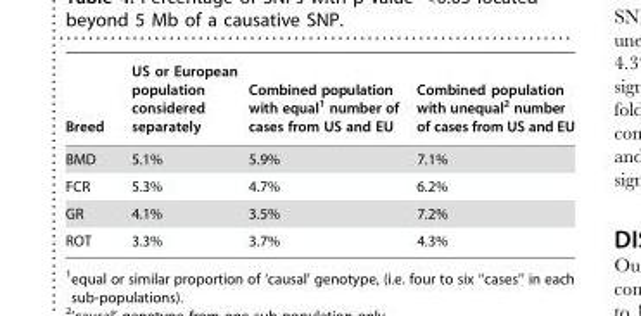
<table><thead><tr><td>Breed</td><td>US or European population considered separately</td><td>Combined population with equal<sup>1</sup> number of cases from US and EU</td><td>Combined population with unequal<sup>2</sup> number of cases from US and EU</td></tr></thead><tbody><tr><td>BMD</td><td>5.1%</td><td>5.9%</td><td>7.1%</td></tr><tr><td>FCR</td><td>5.3%</td><td>4.7%</td><td>6.2%</td></tr><tr><td>GR</td><td>4.1%</td><td>3.5%</td><td>7.2%</td></tr><tr><td>ROT</td><td>3.3%</td><td>3.7%</td><td>4.3%</td></tr></tbody></table>